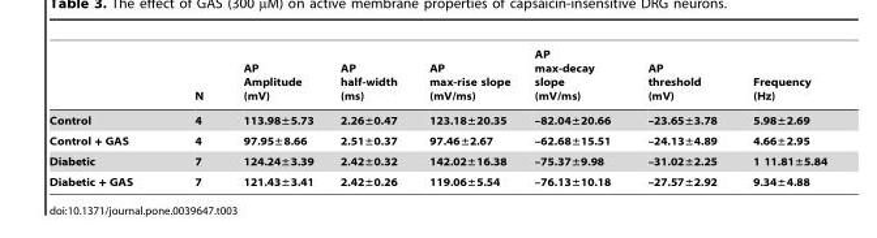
<table><thead><tr><td></td><td>N</td><td>AP Amplitude (mV)</td><td>AP half-width (ms)</td><td>AP max-rise slope (mV/ms)</td><td>AP max-decay slope (mV/ms)</td><td>AP threshold (mV)</td><td>Frequency (Hz)</td></tr></thead><tbody><tr><td>Control</td><td>4</td><td>113.98±5.73</td><td>2.26±0.47</td><td>123.18±20.35</td><td>–82.04±20.66</td><td>–23.65±3.78</td><td>5.98±2.69</td></tr><tr><td>Control + GAS</td><td>4</td><td>97.95±8.66</td><td>2.51±0.37</td><td>97.46±2.67</td><td>–62.68±15.51</td><td>–24.13±4.89</td><td>4.66±2.95</td></tr><tr><td>Diabetic</td><td>7</td><td>124.24±3.39</td><td>2.42±0.32</td><td>142.02±16.38</td><td>–75.37±9.98</td><td>–31.02±2.25</td><td>1 11.81±5.84</td></tr><tr><td>Diabetic + GAS</td><td>7</td><td>121.43±3.41</td><td>2.42±0.26</td><td>119.06±5.54</td><td>–76.13±10.18</td><td>–27.57±2.92</td><td>9.34±4.88</td></tr></tbody></table>